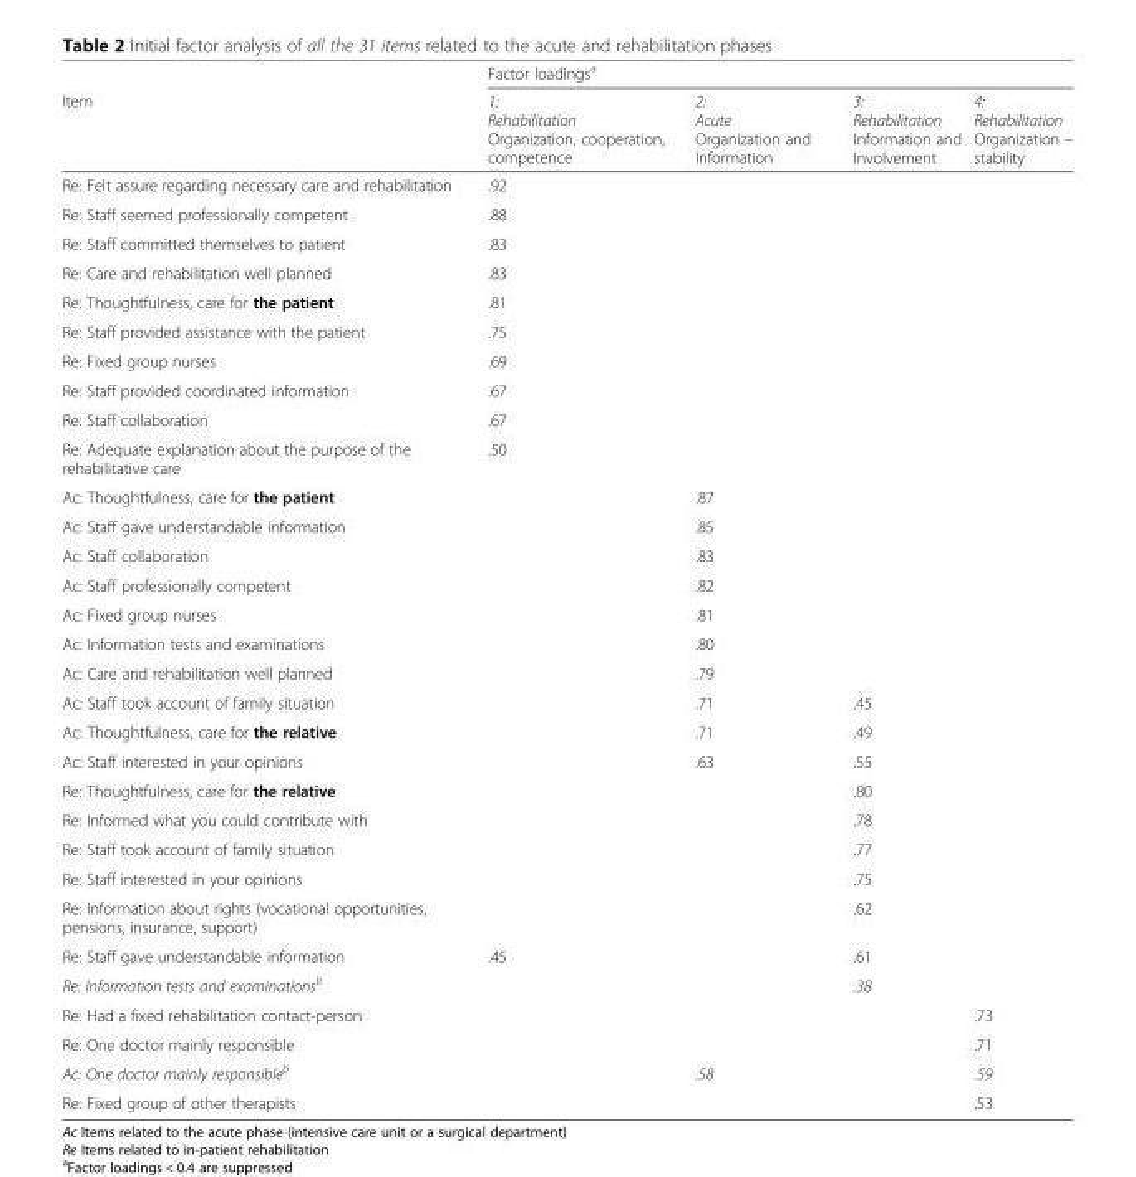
<table><thead><tr><td rowspan="2">Item</td><td colspan="4">Factor loadings<sup>a</sup></td></tr><tr><td>1: Rehabilitation Organization, cooperation, competence</td><td>2: Acute Organization and Information</td><td>3: Rehabilitation Information and Involvement</td><td>4: Rehabilitation Organization – stability</td></tr></thead><tbody><tr><td>Re: Felt assure regarding necessary care and rehabilitation</td><td>.92</td><td></td><td></td><td></td></tr><tr><td>Re: Staff seemed professionally competent</td><td>.88</td><td></td><td></td><td></td></tr><tr><td>Re: Staff committed themselves to patient</td><td>.83</td><td></td><td></td><td></td></tr><tr><td>Re: Care and rehabilitation well planned</td><td>.83</td><td></td><td></td><td></td></tr><tr><td>Re: Thoughtfulness, care for the patient</td><td>.81</td><td></td><td></td><td></td></tr><tr><td>Re: Staff provided assistance with the patient</td><td>.75</td><td></td><td></td><td></td></tr><tr><td>Re: Fixed group nurses</td><td>.69</td><td></td><td></td><td></td></tr><tr><td>Re: Staff provided coordinated information</td><td>.67</td><td></td><td></td><td></td></tr><tr><td>Re: Staff collaboration</td><td>.67</td><td></td><td></td><td></td></tr><tr><td>Re: Adequate explanation about the purpose of the rehabilitative care</td><td>.50</td><td></td><td></td><td></td></tr><tr><td>Ac: Thoughtfulness, care for the patient</td><td></td><td>.87</td><td></td><td></td></tr><tr><td>Ac: Staff gave understandable information</td><td></td><td>.85</td><td></td><td></td></tr><tr><td>Ac: Staff collaboration</td><td></td><td>.83</td><td></td><td></td></tr><tr><td>Ac: Staff professionally competent</td><td></td><td>.82</td><td></td><td></td></tr><tr><td>Ac: Fixed group nurses</td><td></td><td>.81</td><td></td><td></td></tr><tr><td>Ac: Information tests and examinations</td><td></td><td>.80</td><td></td><td></td></tr><tr><td>Ac: Care and rehabilitation well planned</td><td></td><td>.79</td><td></td><td></td></tr><tr><td>Ac: Staff took account of family situation</td><td></td><td>.71</td><td>.45</td><td></td></tr><tr><td>Ac: Thoughtfulness, care for the relative</td><td></td><td>.71</td><td>.49</td><td></td></tr><tr><td>Ac: Staff interested in your opinions</td><td></td><td>.63</td><td>.55</td><td></td></tr><tr><td>Re: Thoughtfulness, care for the relative</td><td></td><td></td><td>.80</td><td></td></tr><tr><td>Re: Informed what you could contribute with</td><td></td><td></td><td>.78</td><td></td></tr><tr><td>Re: Staff took account of family situation</td><td></td><td></td><td>.77</td><td></td></tr><tr><td>Re: Staff interested in your opinions</td><td></td><td></td><td>.75</td><td></td></tr><tr><td>Re: Information about rights (vocational opportunities, pensions, insurance, support)</td><td></td><td></td><td>.62</td><td></td></tr><tr><td>Re: Staff gave understandable information</td><td>.45</td><td></td><td>.61</td><td></td></tr><tr><td>Re: Information tests and examinations<sup>b</sup></td><td></td><td></td><td>.38</td><td></td></tr><tr><td>Re: Had a fixed rehabilitation contact-person</td><td></td><td></td><td></td><td>.73</td></tr><tr><td>Re: One doctor mainly responsible</td><td></td><td></td><td></td><td>.71</td></tr><tr><td>Ac: One doctor mainly responsible<sup>b</sup></td><td></td><td>.58</td><td></td><td>.59</td></tr><tr><td>Re: Fixed group of other therapists</td><td></td><td></td><td></td><td>.53</td></tr></tbody></table>